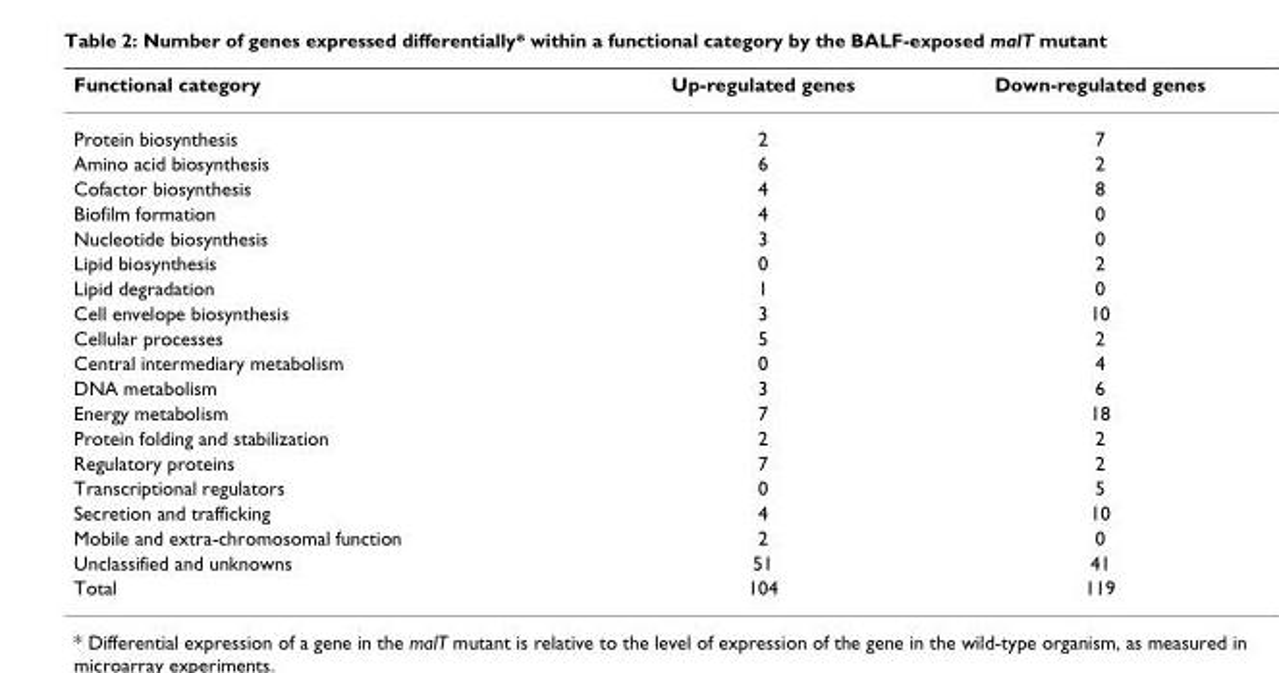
<table><thead><tr><td>Functional category</td><td>Up-regulated genes</td><td>Down-regulated genes</td></tr></thead><tbody><tr><td>Protein biosynthesis</td><td>2</td><td>7</td></tr><tr><td>Amino acid biosynthesis</td><td>6</td><td>2</td></tr><tr><td>Cofactor biosynthesis</td><td>4</td><td>8</td></tr><tr><td>Biofilm formation</td><td>4</td><td>0</td></tr><tr><td>Nucleotide biosynthesis</td><td>3</td><td>0</td></tr><tr><td>Lipid biosynthesis</td><td>0</td><td>2</td></tr><tr><td>Lipid degradation</td><td>1</td><td>0</td></tr><tr><td>Cell envelope biosynthesis</td><td>3</td><td>10</td></tr><tr><td>Cellular processes</td><td>5</td><td>2</td></tr><tr><td>Central intermediary metabolism</td><td>0</td><td>4</td></tr><tr><td>DNA metabolism</td><td>3</td><td>6</td></tr><tr><td>Energy metabolism</td><td>7</td><td>18</td></tr><tr><td>Protein folding and stabilization</td><td>2</td><td>2</td></tr><tr><td>Regulatory proteins</td><td>7</td><td>2</td></tr><tr><td>Transcriptional regulators</td><td>0</td><td>5</td></tr><tr><td>Secretion and trafficking</td><td>4</td><td>10</td></tr><tr><td>Mobile and extra-chromosomal function</td><td>2</td><td>0</td></tr><tr><td>Unclassified and unknowns</td><td>51</td><td>41</td></tr><tr><td>Total</td><td>104</td><td>119</td></tr></tbody></table>